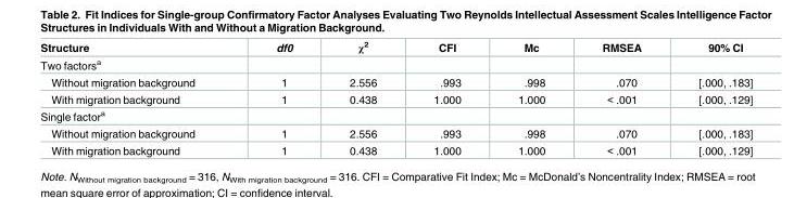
<table><thead><tr><td>Structure</td><td>df0</td><td>χ<sup>2</sup></td><td>CFI</td><td>Mc</td><td>RMSEA</td><td>90% CI</td></tr></thead><tbody><tr><td colspan="7">Two factors<sup>a</sup></td></tr><tr><td>Without migration background</td><td>1</td><td>2.556</td><td>.993</td><td>.998</td><td>.070</td><td>[.000, .183]</td></tr><tr><td>With migration background</td><td>1</td><td>0.438</td><td>1.000</td><td>1.000</td><td>&lt; .001</td><td>[.000, .129]</td></tr><tr><td colspan="7">Single factor<sup>a</sup></td></tr><tr><td>Without migration background</td><td>1</td><td>2.556</td><td>.993</td><td>.998</td><td>.070</td><td>[.000, .183]</td></tr><tr><td>With migration background</td><td>1</td><td>0.438</td><td>1.000</td><td>1.000</td><td>&lt; .001</td><td>[.000, .129]</td></tr></tbody></table>